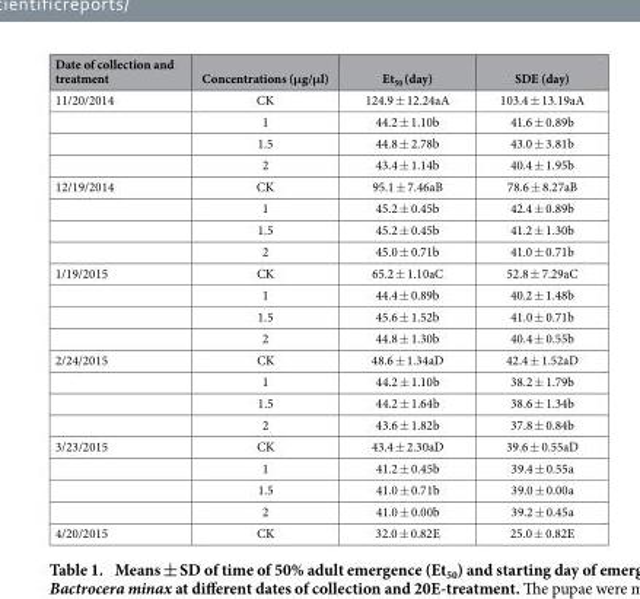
<table><thead><tr><td>Date of collection and treatment</td><td>Concentrations (μg/μl)</td><td>Et<sub>50</sub> (day)</td><td>SDE (day)</td></tr></thead><tbody><tr><td rowspan="4">11/20/2014</td><td>CK</td><td>124.9 ± 12.24aA</td><td>103.4 ± 13.19aA</td></tr><tr><td>1</td><td>44.2 ± 1.10b</td><td>41.6 ± 0.89b</td></tr><tr><td>1.5</td><td>44.8 ± 2.78b</td><td>43.0 ± 3.81b</td></tr><tr><td>2</td><td>43.4 ± 1.14b</td><td>40.4 ± 1.95b</td></tr><tr><td rowspan="4">12/19/2014</td><td>CK</td><td>95.1 ± 7.46aB</td><td>78.6 ± 8.27aB</td></tr><tr><td>1</td><td>45.2 ± 0.45b</td><td>42.4 ± 0.89b</td></tr><tr><td>1.5</td><td>45.2 ± 0.45b</td><td>41.2 ± 1.30b</td></tr><tr><td>2</td><td>45.0 ± 0.71b</td><td>41.0 ± 0.71b</td></tr><tr><td rowspan="4">1/19/2015</td><td>CK</td><td>65.2 ± 1.10aC</td><td>52.8 ± 7.29aC</td></tr><tr><td>1</td><td>44.4 ± 0.89b</td><td>40.2 ± 1.48b</td></tr><tr><td>1.5</td><td>45.6 ± 1.52b</td><td>41.0 ± 0.71b</td></tr><tr><td>2</td><td>44.8 ± 1.30b</td><td>40.4 ± 0.55b</td></tr><tr><td rowspan="4">2/24/2015</td><td>CK</td><td>48.6 ± 1.34aD</td><td>42.4 ± 1.52aD</td></tr><tr><td>1</td><td>44.2 ± 1.10b</td><td>38.2 ± 1.79b</td></tr><tr><td>1.5</td><td>44.2 ± 1.64b</td><td>38.6 ± 1.34b</td></tr><tr><td>2</td><td>43.6 ± 1.82b</td><td>37.8 ± 0.84b</td></tr><tr><td rowspan="4">3/23/2015</td><td>CK</td><td>43.4 ± 2.30aD</td><td>39.6 ± 0.55aD</td></tr><tr><td>1</td><td>41.2 ± 0.45b</td><td>39.4 ± 0.55a</td></tr><tr><td>1.5</td><td>41.0 ± 0.71b</td><td>39.0 ± 0.00a</td></tr><tr><td>2</td><td>41.0 ± 0.00b</td><td>39.2 ± 0.45a</td></tr><tr><td>4/20/2015</td><td>CK</td><td>32.0 ± 0.82E</td><td>25.0 ± 0.82E</td></tr></tbody></table>